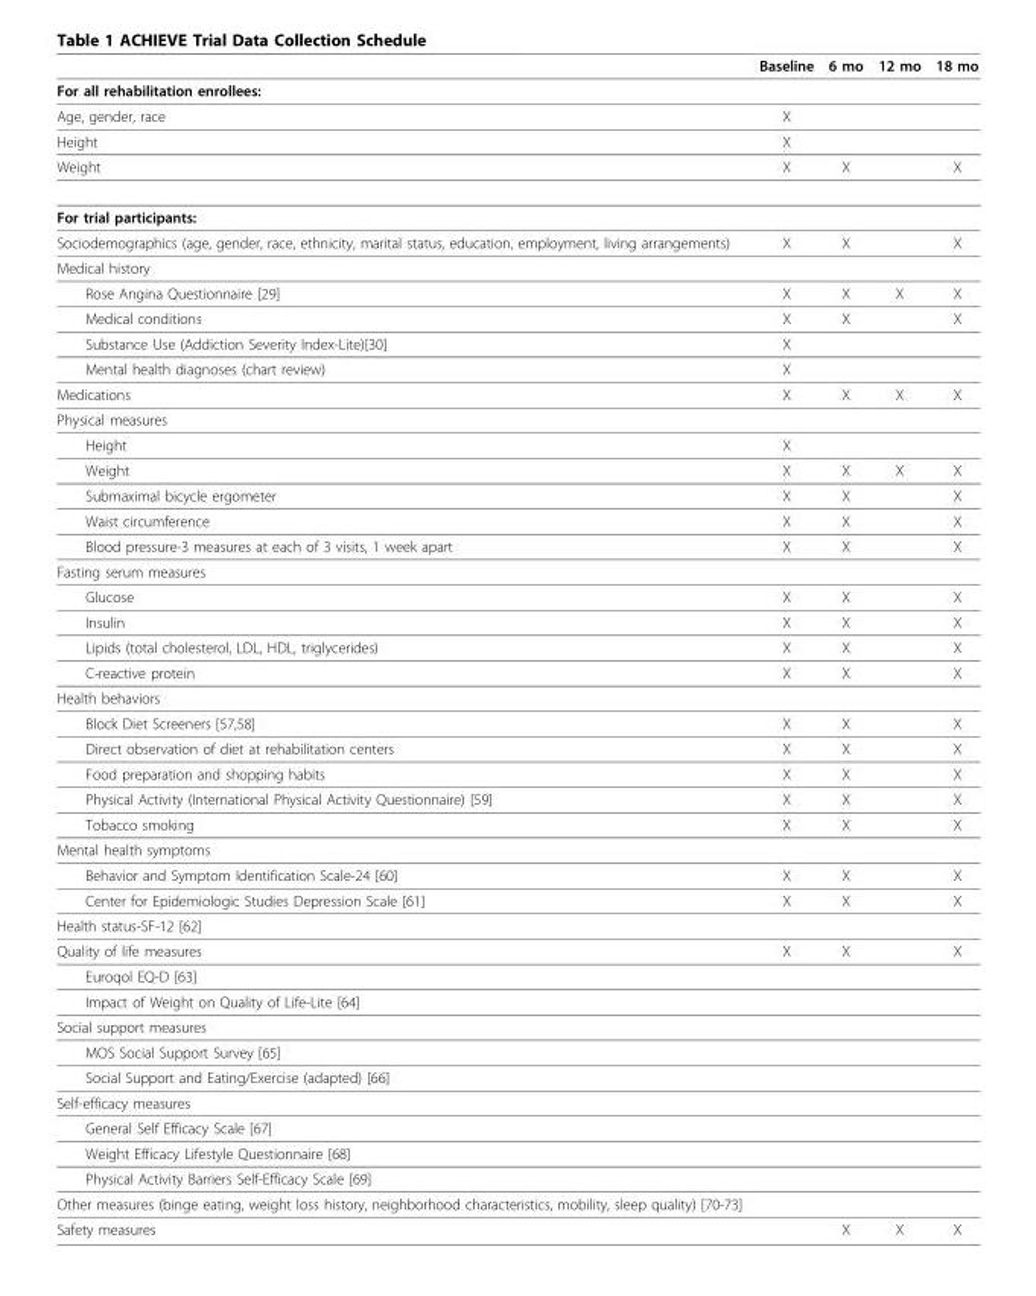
<table><thead><tr><td></td><td>Baseline</td><td>6 mo</td><td>12 mo</td><td>18 mo</td></tr></thead><tbody><tr><td colspan="5">For all rehabilitation enrollees:</td></tr><tr><td>Age, gender, race</td><td>X</td><td></td><td></td><td></td></tr><tr><td>Height</td><td>X</td><td></td><td></td><td></td></tr><tr><td>Weight</td><td>X</td><td>X</td><td></td><td>X</td></tr><tr><td colspan="5">For trial participants:</td></tr><tr><td>Sociodemographics (age, gender, race, ethnicity, marital status, education, employment, living arrangements)</td><td>X</td><td>X</td><td></td><td>X</td></tr><tr><td colspan="5">Medical history</td></tr><tr><td>Rose Angina Questionnaire [29]</td><td>X</td><td>X</td><td>X</td><td>X</td></tr><tr><td>Medical conditions</td><td>X</td><td>X</td><td></td><td>X</td></tr><tr><td>Substance Use (Addiction Severity Index-Lite)[30]</td><td>X</td><td></td><td></td><td></td></tr><tr><td>Mental health diagnoses (chart review)</td><td>X</td><td></td><td></td><td></td></tr><tr><td>Medications</td><td>X</td><td>X</td><td>X</td><td>X</td></tr><tr><td colspan="5">Physical measures</td></tr><tr><td>Height</td><td>X</td><td></td><td></td><td></td></tr><tr><td>Weight</td><td>X</td><td>X</td><td>X</td><td>X</td></tr><tr><td>Submaximal bicycle ergometer</td><td>X</td><td>X</td><td></td><td>X</td></tr><tr><td>Waist circumference</td><td>X</td><td>X</td><td></td><td>X</td></tr><tr><td>Blood pressure-3 measures at each of 3 visits, 1 week apart</td><td>X</td><td>X</td><td></td><td>X</td></tr><tr><td colspan="5">Fasting serum measures</td></tr><tr><td>Glucose</td><td>X</td><td>X</td><td></td><td>X</td></tr><tr><td>Insulin</td><td>X</td><td>X</td><td></td><td>X</td></tr><tr><td>Lipids (total cholesterol, LDL, HDL, triglycerides)</td><td>X</td><td>X</td><td></td><td>X</td></tr><tr><td>C-reactive protein</td><td>X</td><td>X</td><td></td><td>X</td></tr><tr><td colspan="5">Health behaviors</td></tr><tr><td>Block Diet Screeners [57,58]</td><td>X</td><td>X</td><td></td><td>X</td></tr><tr><td>Direct observation of diet at rehabilitation centers</td><td>X</td><td>X</td><td></td><td>X</td></tr><tr><td>Food preparation and shopping habits</td><td>X</td><td>X</td><td></td><td>X</td></tr><tr><td>Physical Activity (International Physical Activity Questionnaire) [59]</td><td>X</td><td>X</td><td></td><td>X</td></tr><tr><td>Tobacco smoking</td><td>X</td><td>X</td><td></td><td>X</td></tr><tr><td colspan="5">Mental health symptoms</td></tr><tr><td>Behavior and Symptom Identification Scale-24 [60]</td><td>X</td><td>X</td><td></td><td>X</td></tr><tr><td>Center for Epidemiologic Studies Depression Scale [61]</td><td>X</td><td>X</td><td></td><td>X</td></tr><tr><td colspan="5">Health status-SF-12 [62]</td></tr><tr><td>Quality of life measures</td><td>X</td><td>X</td><td></td><td>X</td></tr><tr><td colspan="5">Euroqol EQ-D [63]</td></tr><tr><td colspan="5">Impact of Weight on Quality of Life-Lite [64]</td></tr><tr><td colspan="5">Social support measures</td></tr><tr><td colspan="5">MOS Social Support Survey [65]</td></tr><tr><td colspan="5">Social Support and Eating/Exercise (adapted) [66]</td></tr><tr><td colspan="5">Self-efficacy measures</td></tr><tr><td colspan="5">General Self Efficacy Scale [67]</td></tr><tr><td colspan="5">Weight Efficacy Lifestyle Questionnaire [68]</td></tr><tr><td colspan="5">Physical Activity Barriers Self-Efficacy Scale [69]</td></tr><tr><td colspan="5">Other measures (binge eating, weight loss history, neighborhood characteristics, mobility, sleep quality) [70-73]</td></tr><tr><td>Safety measures</td><td></td><td>X</td><td>X</td><td>X</td></tr></tbody></table>